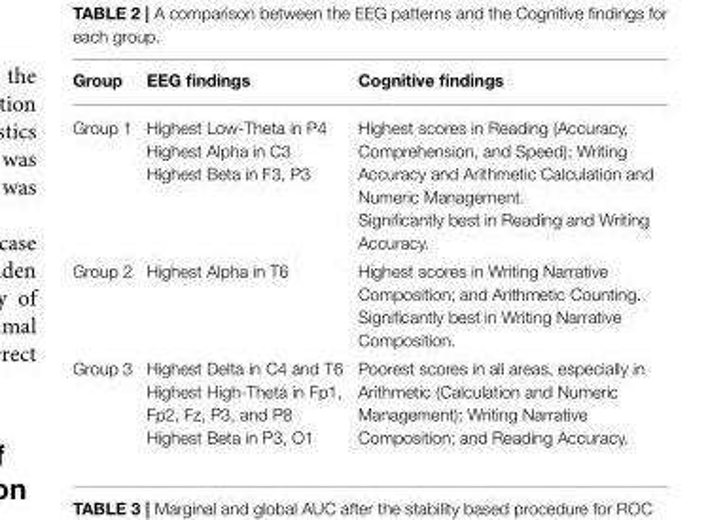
<table><thead><tr><td>Group</td><td>EEG findings</td><td>Cognitive findings</td></tr></thead><tbody><tr><td>Group 1</td><td>Highest Low-Theta in P4 Highest Alpha in C3 Highest Beta in F3, P3</td><td>Highest scores in Reading (Accuracy, Comprehension, and Speed); Writing Accuracy and Arithmetic Calculation and Numeric Management. Significantly best in Reading and Writing Accuracy.</td></tr><tr><td>Group 2</td><td>Highest Alpha in T6</td><td>Highest scores in Writing Narrative Composition; and Arithmetic Counting. Significantly best in Writing Narrative Composition.</td></tr><tr><td>Group 3</td><td>Highest Delta in C4 and T6 Highest High-Theta in Fp1, Fp2, Fz, P3, and P8 Highest Beta in P3, O1</td><td>Poorest scores in all areas, especially in Arithmetic (Calculation and Numeric Management); Writing Narrative Composition; and Reading Accuracy.</td></tr></tbody></table>